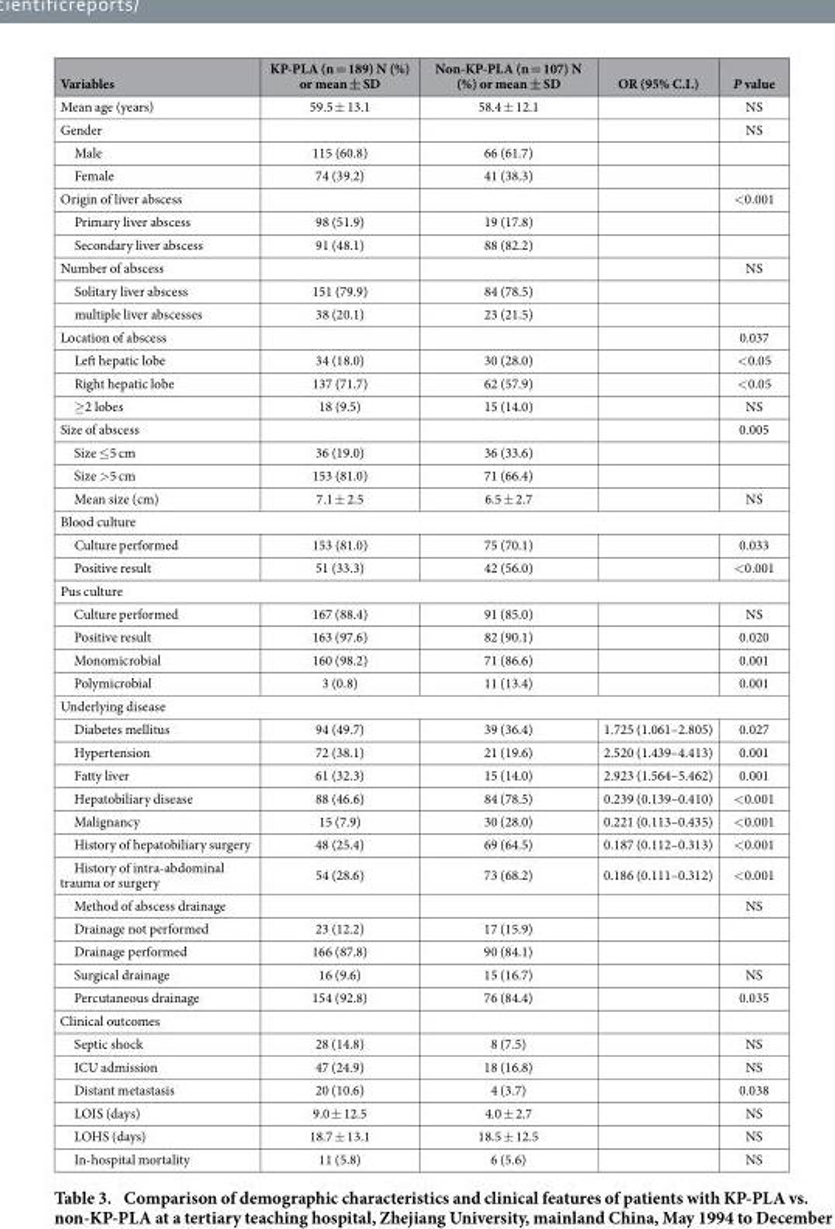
<table><thead><tr><td>Variables</td><td>KP-PLA (n = 189) N (%) or mean ± SD</td><td>Non-KP-PLA (n = 107) N (%) or mean ± SD</td><td>OR (95% C.I.)</td><td>P value</td></tr></thead><tbody><tr><td>Mean age (years)</td><td>59.5 ± 13.1</td><td>58.4 ± 12.1</td><td></td><td>NS</td></tr><tr><td>Gender</td><td></td><td></td><td></td><td>NS</td></tr><tr><td>Male</td><td>115 (60.8)</td><td>66 (61.7)</td><td></td><td></td></tr><tr><td>Female</td><td>74 (39.2)</td><td>41 (38.3)</td><td></td><td></td></tr><tr><td>Origin of liver abscess</td><td></td><td></td><td></td><td>&lt; 0.001</td></tr><tr><td>Primary liver abscess</td><td>98 (51.9)</td><td>19 (17.8)</td><td></td><td></td></tr><tr><td>Secondary liver abscess</td><td>91 (48.1)</td><td>88 (82.2)</td><td></td><td></td></tr><tr><td>Number of abscess</td><td></td><td></td><td></td><td>NS</td></tr><tr><td>Solitary liver abscess</td><td>151 (79.9)</td><td>84 (78.5)</td><td></td><td></td></tr><tr><td>multiple liver abscesses</td><td>38 (20.1)</td><td>23 (21.5)</td><td></td><td></td></tr><tr><td>Location of abscess</td><td></td><td></td><td></td><td>0.037</td></tr><tr><td>Left hepatic lobe</td><td>34 (18.0)</td><td>30 (28.0)</td><td></td><td>&lt; 0.05</td></tr><tr><td>Right hepatic lobe</td><td>137 (71.7)</td><td>62 (57.9)</td><td></td><td>&lt; 0.05</td></tr><tr><td>≥ 2 lobes</td><td>18 (9.5)</td><td>15 (14.0)</td><td></td><td>NS</td></tr><tr><td>Size of abscess</td><td></td><td></td><td></td><td>0.005</td></tr><tr><td>Size ≤ 5 cm</td><td>36 (19.0)</td><td>36 (33.6)</td><td></td><td></td></tr><tr><td>Size &gt; 5 cm</td><td>153 (81.0)</td><td>71 (66.4)</td><td></td><td></td></tr><tr><td>Mean size (cm)</td><td>7.1 ± 2.5</td><td>6.5 ± 2.7</td><td></td><td>NS</td></tr><tr><td colspan="5">Blood culture</td></tr><tr><td>Culture performed</td><td>153 (81.0)</td><td>75 (70.1)</td><td></td><td>0.033</td></tr><tr><td>Positive result</td><td>51 (33.3)</td><td>42 (56.0)</td><td></td><td>&lt; 0.001</td></tr><tr><td colspan="5">Pus culture</td></tr><tr><td>Culture performed</td><td>167 (88.4)</td><td>91 (85.0)</td><td></td><td>NS</td></tr><tr><td>Positive result</td><td>163 (97.6)</td><td>82 (90.1)</td><td></td><td>0.020</td></tr><tr><td>Monomicrobial</td><td>160 (98.2)</td><td>71 (86.6)</td><td></td><td>0.001</td></tr><tr><td>Polymicrobial</td><td>3 (0.8)</td><td>11 (13.4)</td><td></td><td>0.001</td></tr><tr><td colspan="5">Underlying disease</td></tr><tr><td>Diabetes mellitus</td><td>94 (49.7)</td><td>39 (36.4)</td><td>1.725 (1.061–2.805)</td><td>0.027</td></tr><tr><td>Hypertension</td><td>72 (38.1)</td><td>21 (19.6)</td><td>2.520 (1.439–4.413)</td><td>0.001</td></tr><tr><td>Fatty liver</td><td>61 (32.3)</td><td>15 (14.0)</td><td>2.923 (1.564–5.462)</td><td>0.001</td></tr><tr><td>Hepatobiliary disease</td><td>88 (46.6)</td><td>84 (78.5)</td><td>0.239 (0.139–0.410)</td><td>&lt; 0.001</td></tr><tr><td>Malignancy</td><td>15 (7.9)</td><td>30 (28.0)</td><td>0.221 (0.113–0.435)</td><td>&lt; 0.001</td></tr><tr><td>History of hepatobiliary surgery</td><td>48 (25.4)</td><td>69 (64.5)</td><td>0.187 (0.112–0.313)</td><td>&lt; 0.001</td></tr><tr><td>History of intra-abdominal trauma or surgery</td><td>54 (28.6)</td><td>73 (68.2)</td><td>0.186 (0.111–0.312)</td><td>&lt; 0.001</td></tr><tr><td>Method of abscess drainage</td><td></td><td></td><td></td><td>NS</td></tr><tr><td>Drainage not performed</td><td>23 (12.2)</td><td>17 (15.9)</td><td></td><td></td></tr><tr><td>Drainage performed</td><td>166 (87.8)</td><td>90 (84.1)</td><td></td><td></td></tr><tr><td>Surgical drainage</td><td>16 (9.6)</td><td>15 (16.7)</td><td></td><td>NS</td></tr><tr><td>Percutaneous drainage</td><td>154 (92.8)</td><td>76 (84.4)</td><td></td><td>0.035</td></tr><tr><td colspan="5">Clinical outcomes</td></tr><tr><td>Septic shock</td><td>28 (14.8)</td><td>8 (7.5)</td><td></td><td>NS</td></tr><tr><td>ICU admission</td><td>47 (24.9)</td><td>18 (16.8)</td><td></td><td>NS</td></tr><tr><td>Distant metastasis</td><td>20 (10.6)</td><td>4 (3.7)</td><td></td><td>0.038</td></tr><tr><td>LOIS (days)</td><td>9.0 ± 12.5</td><td>4.0 ± 2.7</td><td></td><td>NS</td></tr><tr><td>LOHS (days)</td><td>18.7 ± 13.1</td><td>18.5 ± 12.5</td><td></td><td>NS</td></tr><tr><td>In-hospital mortality</td><td>11 (5.8)</td><td>6 (5.6)</td><td></td><td>NS</td></tr></tbody></table>